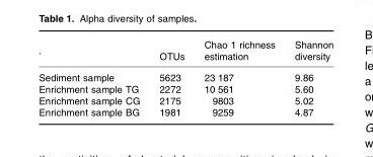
<table><thead><tr><td>`</td><td>OTUs</td><td>Chao 1 richness estimation</td><td>Shannon diversity</td></tr></thead><tbody><tr><td>Sediment sample</td><td>5623</td><td>23 187</td><td>9.86</td></tr><tr><td>Enrichment sample TG</td><td>2272</td><td>10 561</td><td>5.60</td></tr><tr><td>Enrichment sample CG</td><td>2175</td><td>9803</td><td>5.02</td></tr><tr><td>Enrichment sample BG</td><td>1981</td><td>9259</td><td>4.87</td></tr></tbody></table>